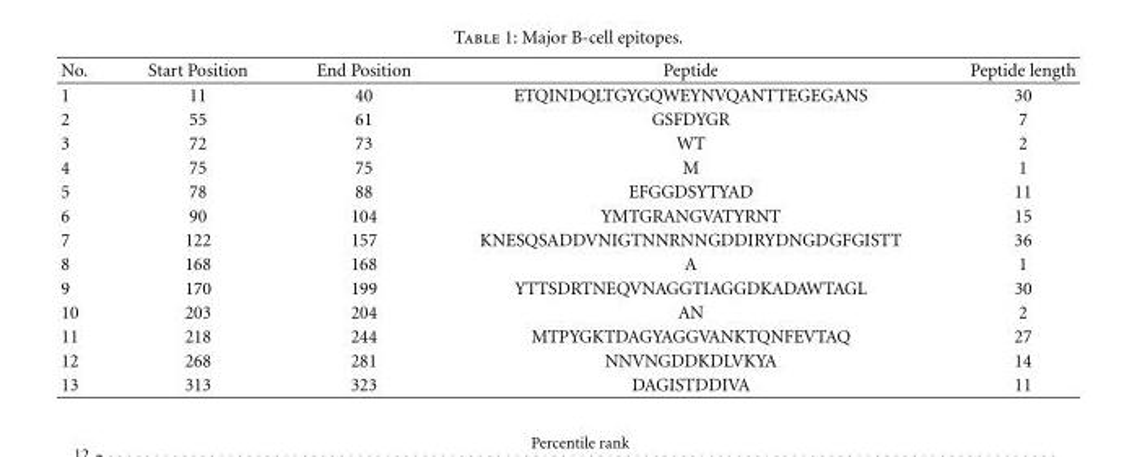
<table><thead><tr><td>No.</td><td>Start Position</td><td>End Position</td><td>Peptide</td><td>Peptide length</td></tr></thead><tbody><tr><td>1</td><td>11</td><td>40</td><td>ETQINDQLTGYGQWEYNVQANTTEGEGANS</td><td>30</td></tr><tr><td>2</td><td>55</td><td>61</td><td>GSFDYGR</td><td>7</td></tr><tr><td>3</td><td>72</td><td>73</td><td>WT</td><td>2</td></tr><tr><td>4</td><td>75</td><td>75</td><td>M</td><td>1</td></tr><tr><td>5</td><td>78</td><td>88</td><td>EFGGDSYTYAD</td><td>11</td></tr><tr><td>6</td><td>90</td><td>104</td><td>YMTGRANGVATYRNT</td><td>15</td></tr><tr><td>7</td><td>122</td><td>157</td><td>KNESQSADDVNIGTNNRNNGDDIRYDNGDGFGISTT</td><td>36</td></tr><tr><td>8</td><td>168</td><td>168</td><td>A</td><td>1</td></tr><tr><td>9</td><td>170</td><td>199</td><td>YTTSDRTNEQVNAGGTIAGGDKADAWTAGL</td><td>30</td></tr><tr><td>10</td><td>203</td><td>204</td><td>AN</td><td>2</td></tr><tr><td>11</td><td>218</td><td>244</td><td>MTPYGKTDAGYAGGVANKTQNFEVTAQ</td><td>27</td></tr><tr><td>12</td><td>268</td><td>281</td><td>NNVNGDDKDLVKYA</td><td>14</td></tr><tr><td>13</td><td>313</td><td>323</td><td>DAGISTDDIVA</td><td>11</td></tr></tbody></table>